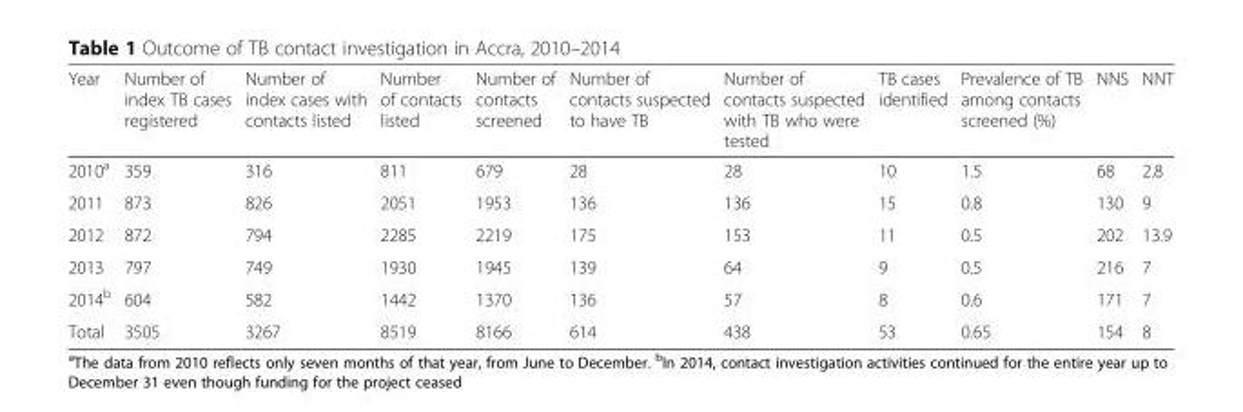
<table><thead><tr><td>Year</td><td>Number of index TB cases registered</td><td>Number of index cases with contacts listed</td><td>Number of contacts listed</td><td>Number of contacts screened</td><td>Number of contacts suspected to have TB</td><td>Number of contacts suspected with TB who were tested</td><td>TB cases identified</td><td>Prevalence of TB among contacts screened (%)</td><td>NNS</td><td>NNT</td></tr></thead><tbody><tr><td>2010<sup>a</sup></td><td>359</td><td>316</td><td>811</td><td>679</td><td>28</td><td>28</td><td>10</td><td>1.5</td><td>68</td><td>2.8</td></tr><tr><td>2011</td><td>873</td><td>826</td><td>2051</td><td>1953</td><td>136</td><td>136</td><td>15</td><td>0.8</td><td>130</td><td>9</td></tr><tr><td>2012</td><td>872</td><td>794</td><td>2285</td><td>2219</td><td>175</td><td>153</td><td>11</td><td>0.5</td><td>202</td><td>13.9</td></tr><tr><td>2013</td><td>797</td><td>749</td><td>1930</td><td>1945</td><td>139</td><td>64</td><td>9</td><td>0.5</td><td>216</td><td>7</td></tr><tr><td>2014<sup>b</sup></td><td>604</td><td>582</td><td>1442</td><td>1370</td><td>136</td><td>57</td><td>8</td><td>0.6</td><td>171</td><td>7</td></tr><tr><td>Total</td><td>3505</td><td>3267</td><td>8519</td><td>8166</td><td>614</td><td>438</td><td>53</td><td>0.65</td><td>154</td><td>8</td></tr></tbody></table>